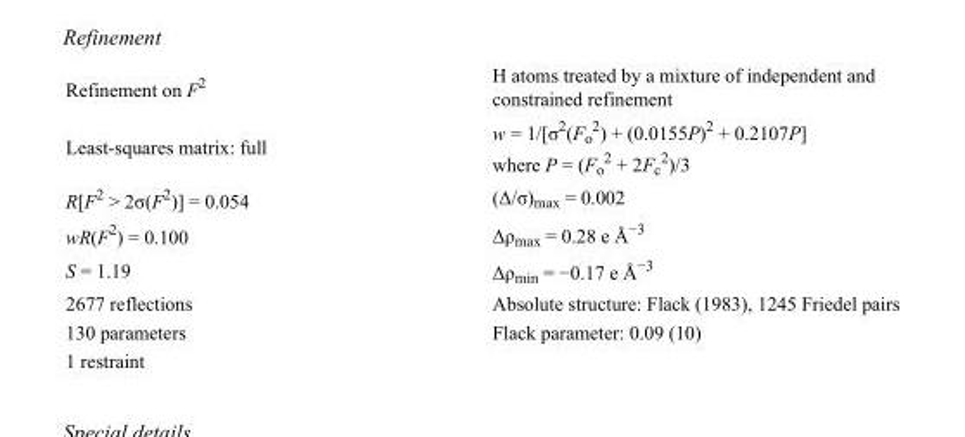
<table><tbody><tr><td>Refinement on F<sup>2</sup></td><td>H atoms treated by a mixture of independent and constrained refinement</td></tr><tr><td>Least-squares matrix: full</td><td>w = 1/[σ<sup>2</sup>(F<sub>o</sub> <sup>2</sup>) + (0.0155P)<sup>2</sup> + 0.2107P] where P = (F<sub>o</sub> <sup>2</sup> + 2F<sub>c</sub> <sup>2</sup>)/3</td></tr><tr><td>R[F<sup>2</sup> &gt; 2σ(F<sup>2</sup>)] = 0.054</td><td>(Δ/σ)<sub>max</sub> = 0.002</td></tr><tr><td>wR(F<sup>2</sup>) = 0.100</td><td>Δρ<sub>max</sub> = 0.28 e Å<sup>−3</sup></td></tr><tr><td>S = 1.19</td><td>Δρ<sub>min</sub> = −0.17 e Å<sup>−3</sup></td></tr><tr><td>2677 reflections</td><td>Absolute structure: Flack (1983), 1245 Friedel pairs</td></tr><tr><td>130 parameters</td><td>Flack parameter: 0.09 (10)</td></tr><tr><td>1 restraint</td><td></td></tr></tbody></table>